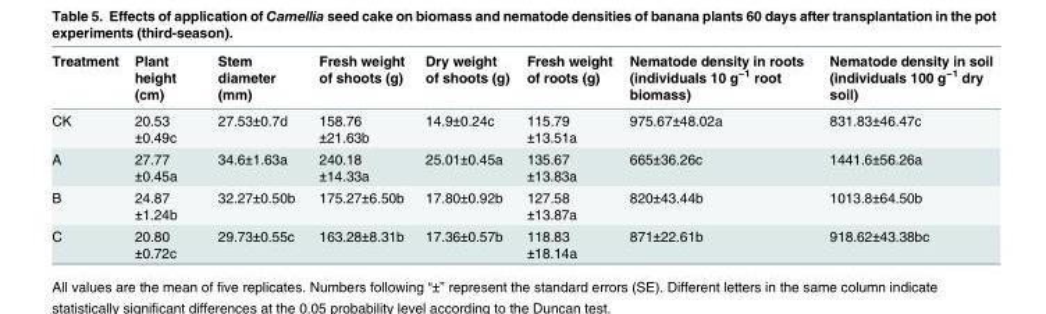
<table><thead><tr><td>Treatment</td><td>Plant height (cm)</td><td>Stem diameter (mm)</td><td>Fresh weight of shoots (g)</td><td>Dry weight of shoots (g)</td><td>Fresh weight of roots (g)</td><td>Nematode density in roots (individuals 10 g<sup>−1</sup> root biomass)</td><td>Nematode density in soil (individuals 100 g<sup>−1</sup> dry soil)</td></tr></thead><tbody><tr><td>CK</td><td>20.53 ±0.49c</td><td>27.53±0.7d</td><td>158.76 ±21.63b</td><td>14.9±0.24c</td><td>115.79 ±13.51a</td><td>975.67±48.02a</td><td>831.83±46.47c</td></tr><tr><td>A</td><td>27.77 ±0.45a</td><td>34.6±1.63a</td><td>240.18 ±14.33a</td><td>25.01±0.45a</td><td>135.67 ±13.83a</td><td>665±36.26c</td><td>1441.6±56.26a</td></tr><tr><td>B</td><td>24.87 ±1.24b</td><td>32.27±0.50b</td><td>175.27±6.50b</td><td>17.80±0.92b</td><td>127.58 ±13.87a</td><td>820±43.44b</td><td>1013.8±64.50b</td></tr><tr><td>C</td><td>20.80 ±0.72c</td><td>29.73±0.55c</td><td>163.28±8.31b</td><td>17.36±0.57b</td><td>118.83 ±18.14a</td><td>871±22.61b</td><td>918.62±43.38bc</td></tr></tbody></table>